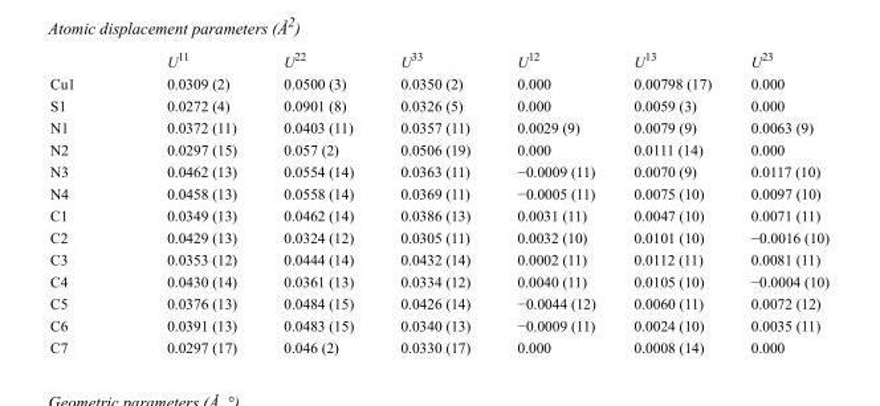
<table><thead><tr><td></td><td>U<sup>11</sup></td><td>U<sup>22</sup></td><td>U<sup>33</sup></td><td>U<sup>12</sup></td><td>U<sup>13</sup></td><td>U<sup>23</sup></td></tr></thead><tbody><tr><td>Cu1</td><td>0.0309 (2)</td><td>0.0500 (3)</td><td>0.0350 (2)</td><td>0.000</td><td>0.00798 (17)</td><td>0.000</td></tr><tr><td>S1</td><td>0.0272 (4)</td><td>0.0901 (8)</td><td>0.0326 (5)</td><td>0.000</td><td>0.0059 (3)</td><td>0.000</td></tr><tr><td>N1</td><td>0.0372 (11)</td><td>0.0403 (11)</td><td>0.0357 (11)</td><td>0.0029 (9)</td><td>0.0079 (9)</td><td>0.0063 (9)</td></tr><tr><td>N2</td><td>0.0297 (15)</td><td>0.057 (2)</td><td>0.0506 (19)</td><td>0.000</td><td>0.0111 (14)</td><td>0.000</td></tr><tr><td>N3</td><td>0.0462 (13)</td><td>0.0554 (14)</td><td>0.0363 (11)</td><td>−0.0009 (11)</td><td>0.0070 (9)</td><td>0.0117 (10)</td></tr><tr><td>N4</td><td>0.0458 (13)</td><td>0.0558 (14)</td><td>0.0369 (11)</td><td>−0.0005 (11)</td><td>0.0075 (10)</td><td>0.0097 (10)</td></tr><tr><td>C1</td><td>0.0349 (13)</td><td>0.0462 (14)</td><td>0.0386 (13)</td><td>0.0031 (11)</td><td>0.0047 (10)</td><td>0.0071 (11)</td></tr><tr><td>C2</td><td>0.0429 (13)</td><td>0.0324 (12)</td><td>0.0305 (11)</td><td>0.0032 (10)</td><td>0.0101 (10)</td><td>−0.0016 (10)</td></tr><tr><td>C3</td><td>0.0353 (12)</td><td>0.0444 (14)</td><td>0.0432 (14)</td><td>0.0002 (11)</td><td>0.0112 (11)</td><td>0.0081 (11)</td></tr><tr><td>C4</td><td>0.0430 (14)</td><td>0.0361 (13)</td><td>0.0334 (12)</td><td>0.0040 (11)</td><td>0.0105 (10)</td><td>−0.0004 (10)</td></tr><tr><td>C5</td><td>0.0376 (13)</td><td>0.0484 (15)</td><td>0.0426 (14)</td><td>−0.0044 (12)</td><td>0.0060 (11)</td><td>0.0072 (12)</td></tr><tr><td>C6</td><td>0.0391 (13)</td><td>0.0483 (15)</td><td>0.0340 (13)</td><td>−0.0009 (11)</td><td>0.0024 (10)</td><td>0.0035 (11)</td></tr><tr><td>C7</td><td>0.0297 (17)</td><td>0.046 (2)</td><td>0.0330 (17)</td><td>0.000</td><td>0.0008 (14)</td><td>0.000</td></tr></tbody></table>